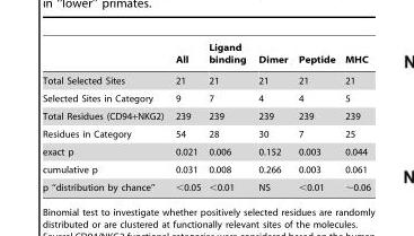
<table><thead><tr><td></td><td>All</td><td>Ligand binding</td><td>Dimer</td><td>Peptide</td><td>MHC</td></tr></thead><tbody><tr><td>Total Selected Sites</td><td>21</td><td>21</td><td>21</td><td>21</td><td>21</td></tr><tr><td>Selected Sites in Category</td><td>9</td><td>7</td><td>4</td><td>4</td><td>5</td></tr><tr><td>Total Residues (CD94+NKG2)</td><td>239</td><td>239</td><td>239</td><td>239</td><td>239</td></tr><tr><td>Residues in Category</td><td>54</td><td>28</td><td>30</td><td>7</td><td>25</td></tr><tr><td>exact p</td><td>0.021</td><td>0.006</td><td>0.152</td><td>0.003</td><td>0.044</td></tr><tr><td>cumulative p</td><td>0.031</td><td>0.008</td><td>0.266</td><td>0.003</td><td>0.061</td></tr><tr><td>p ‘‘distribution by chance’’</td><td>&lt;0.05</td><td>&lt;0.01</td><td>NS</td><td>&lt;0.01</td><td>∼0.06</td></tr></tbody></table>